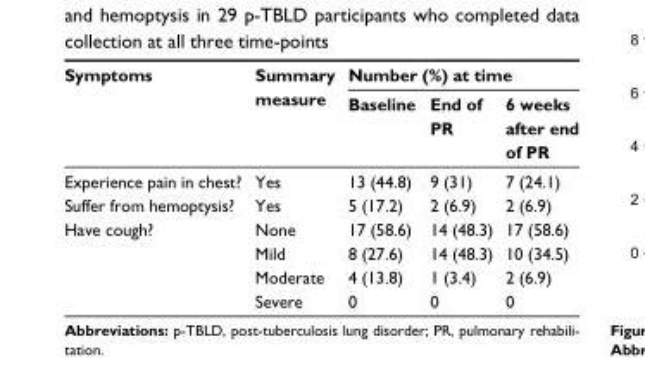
<table><thead><tr><td rowspan="2">Symptoms</td><td rowspan="2">Summary measure</td><td colspan="3">Number (%) at time</td></tr><tr><td>Baseline</td><td>End of PR</td><td>6 weeks after end of PR</td></tr></thead><tbody><tr><td>experience pain in chest?</td><td>Yes</td><td>13 (44.8)</td><td>9 (31)</td><td>7 (24.1)</td></tr><tr><td>suffer from hemoptysis?</td><td>Yes</td><td>5 (17.2)</td><td>2 (6.9)</td><td>2 (6.9)</td></tr><tr><td rowspan="4">have cough?</td><td>none</td><td>17 (58.6)</td><td>14 (48.3)</td><td>17 (58.6)</td></tr><tr><td>Mild</td><td>8 (27.6)</td><td>14 (48.3)</td><td>10 (34.5)</td></tr><tr><td>Moderate</td><td>4 (13.8)</td><td>1 (3.4)</td><td>2 (6.9)</td></tr><tr><td>severe</td><td>0</td><td>0</td><td>0</td></tr></tbody></table>